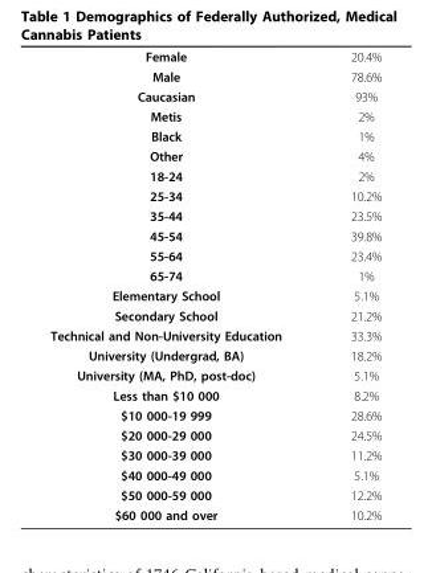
<table><tbody><tr><td>Female</td><td>20.4%</td></tr><tr><td>Male</td><td>78.6%</td></tr><tr><td>Caucasian</td><td>93%</td></tr><tr><td>Metis</td><td>2%</td></tr><tr><td>Black</td><td>1%</td></tr><tr><td>Other</td><td>4%</td></tr><tr><td>18-24</td><td>2%</td></tr><tr><td>25-34</td><td>10.2%</td></tr><tr><td>35-44</td><td>23.5%</td></tr><tr><td>45-54</td><td>39.8%</td></tr><tr><td>55-64</td><td>23.4%</td></tr><tr><td>65-74</td><td>1%</td></tr><tr><td>Elementary School</td><td>5.1%</td></tr><tr><td>Secondary School</td><td>21.2%</td></tr><tr><td>Technical and Non-University Education</td><td>33.3%</td></tr><tr><td>University (Undergrad, BA)</td><td>18.2%</td></tr><tr><td>University (MA, PhD, post-doc)</td><td>5.1%</td></tr><tr><td>Less than $10 000</td><td>8.2%</td></tr><tr><td>$10 000-19 999</td><td>28.6%</td></tr><tr><td>$20 000-29 000</td><td>24.5%</td></tr><tr><td>$30 000-39 000</td><td>11.2%</td></tr><tr><td>$40 000-49 000</td><td>5.1%</td></tr><tr><td>$50 000-59 000</td><td>12.2%</td></tr><tr><td>$60 000 and over</td><td>10.2%</td></tr></tbody></table>